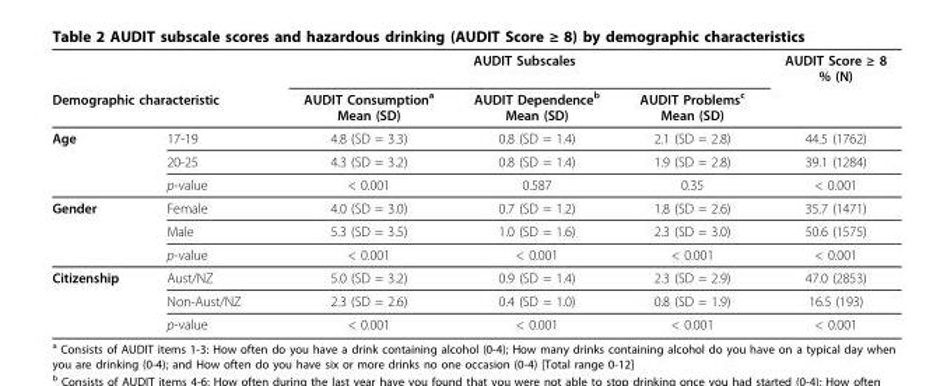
<table><thead><tr><td></td><td></td><td colspan="3">AUDIT Subscales</td><td rowspan="2">AUDIT Score ≥ 8 % (N)</td></tr><tr><td colspan="2">Demographic characteristic</td><td>AUDIT Consumption<sup>a</sup> Mean (SD)</td><td>AUDIT Dependence<sup>b</sup> Mean (SD)</td><td>AUDIT Problems<sup>c</sup> Mean (SD)</td></tr></thead><tbody><tr><td rowspan="3">Age</td><td>17-19</td><td>4.8 (SD = 3.3)</td><td>0.8 (SD = 1.4)</td><td>2.1 (SD = 2.8)</td><td>44.5 (1762)</td></tr><tr><td>20-25</td><td>4.3 (SD = 3.2)</td><td>0.8 (SD = 1.4)</td><td>1.9 (SD = 2.8)</td><td>39.1 (1284)</td></tr><tr><td>p-value</td><td>&lt; 0.001</td><td>0.587</td><td>0.35</td><td>&lt; 0.001</td></tr><tr><td rowspan="3">Gender</td><td>Female</td><td>4.0 (SD = 3.0)</td><td>0.7 (SD = 1.2)</td><td>1.8 (SD = 2.6)</td><td>35.7 (1471)</td></tr><tr><td>Male</td><td>5.3 (SD = 3.5)</td><td>1.0 (SD = 1.6)</td><td>2.3 (SD = 3.0)</td><td>50.6 (1575)</td></tr><tr><td>p-value</td><td>&lt; 0.001</td><td>&lt; 0.001</td><td>&lt; 0.001</td><td>&lt; 0.001</td></tr><tr><td rowspan="3">Citizenship</td><td>Aust/NZ</td><td>5.0 (SD = 3.2)</td><td>0.9 (SD = 1.4)</td><td>2.3 (SD = 2.9)</td><td>47.0 (2853)</td></tr><tr><td>Non-Aust/NZ</td><td>2.3 (SD = 2.6)</td><td>0.4 (SD = 1.0)</td><td>0.8 (SD = 1.9)</td><td>16.5 (193)</td></tr><tr><td>p-value</td><td>&lt; 0.001</td><td>&lt; 0.001</td><td>&lt; 0.001</td><td>&lt; 0.001</td></tr></tbody></table>